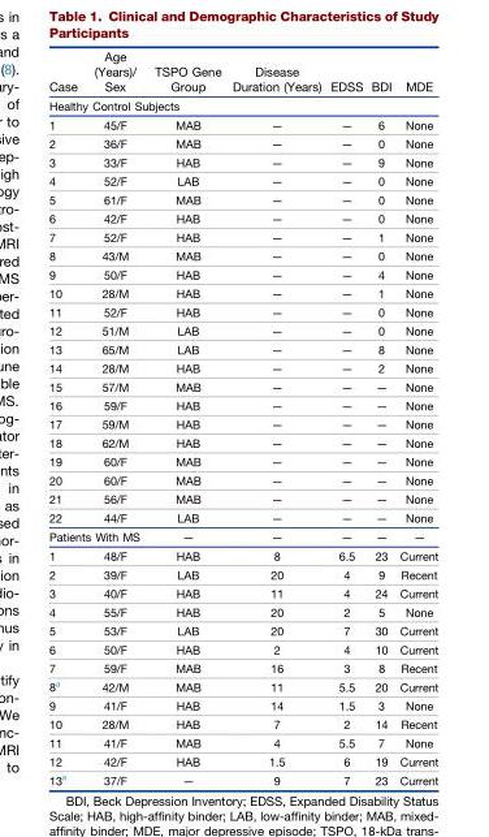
<table><thead><tr><td>Case</td><td>Age (Years)/ Sex</td><td>TSPO Gene Group</td><td>Disease Duration (Years)</td><td>EDSS</td><td>BDI</td><td>MDE</td></tr></thead><tbody><tr><td colspan="7">Healthy Control Subjects</td></tr><tr><td>1</td><td>45/F</td><td>MAB</td><td>—</td><td>—</td><td>6</td><td>None</td></tr><tr><td>2</td><td>36/F</td><td>MAB</td><td>—</td><td>—</td><td>0</td><td>None</td></tr><tr><td>3</td><td>33/F</td><td>HAB</td><td>—</td><td>—</td><td>9</td><td>None</td></tr><tr><td>4</td><td>52/F</td><td>LAB</td><td>—</td><td>—</td><td>0</td><td>None</td></tr><tr><td>5</td><td>61/F</td><td>MAB</td><td>—</td><td>—</td><td>0</td><td>None</td></tr><tr><td>6</td><td>42/F</td><td>HAB</td><td>—</td><td>—</td><td>0</td><td>None</td></tr><tr><td>7</td><td>52/F</td><td>HAB</td><td>—</td><td>—</td><td>1</td><td>None</td></tr><tr><td>8</td><td>43/M</td><td>MAB</td><td>—</td><td>—</td><td>0</td><td>None</td></tr><tr><td>9</td><td>50/F</td><td>HAB</td><td>—</td><td>—</td><td>4</td><td>None</td></tr><tr><td>10</td><td>28/M</td><td>HAB</td><td>—</td><td>—</td><td>1</td><td>None</td></tr><tr><td>11</td><td>52/F</td><td>HAB</td><td>—</td><td>—</td><td>0</td><td>None</td></tr><tr><td>12</td><td>51/M</td><td>LAB</td><td>—</td><td>—</td><td>0</td><td>None</td></tr><tr><td>13</td><td>65/M</td><td>LAB</td><td>—</td><td>—</td><td>8</td><td>None</td></tr><tr><td>14</td><td>28/M</td><td>HAB</td><td>—</td><td>—</td><td>2</td><td>None</td></tr><tr><td>15</td><td>57/M</td><td>MAB</td><td>—</td><td>—</td><td>—</td><td>None</td></tr><tr><td>16</td><td>59/F</td><td>HAB</td><td>—</td><td>—</td><td>—</td><td>None</td></tr><tr><td>17</td><td>59/M</td><td>HAB</td><td>—</td><td>—</td><td>—</td><td>None</td></tr><tr><td>18</td><td>62/M</td><td>HAB</td><td>—</td><td>—</td><td>—</td><td>None</td></tr><tr><td>19</td><td>60/F</td><td>MAB</td><td>—</td><td>—</td><td>—</td><td>None</td></tr><tr><td>20</td><td>60/F</td><td>MAB</td><td>—</td><td>—</td><td>—</td><td>None</td></tr><tr><td>21</td><td>56/F</td><td>MAB</td><td>—</td><td>—</td><td>—</td><td>None</td></tr><tr><td>22</td><td>44/F</td><td>LAB</td><td>—</td><td>—</td><td>—</td><td>None</td></tr><tr><td colspan="2">Patients With MS</td><td>—</td><td>—</td><td>—</td><td>—</td><td>—</td></tr><tr><td>1</td><td>48/F</td><td>HAB</td><td>8</td><td>6.5</td><td>23</td><td>Current</td></tr><tr><td>2</td><td>39/F</td><td>LAB</td><td>20</td><td>4</td><td>9</td><td>Recent</td></tr><tr><td>3</td><td>40/F</td><td>HAB</td><td>11</td><td>4</td><td>24</td><td>Current</td></tr><tr><td>4</td><td>55/F</td><td>HAB</td><td>20</td><td>2</td><td>5</td><td>None</td></tr><tr><td>5</td><td>53/F</td><td>LAB</td><td>20</td><td>7</td><td>30</td><td>Current</td></tr><tr><td>6</td><td>50/F</td><td>HAB</td><td>2</td><td>4</td><td>10</td><td>Current</td></tr><tr><td>7</td><td>59/F</td><td>MAB</td><td>16</td><td>3</td><td>8</td><td>Recent</td></tr><tr><td>8<sup>a</sup></td><td>42/M</td><td>MAB</td><td>11</td><td>5.5</td><td>20</td><td>Current</td></tr><tr><td>9</td><td>41/F</td><td>HAB</td><td>14</td><td>1.5</td><td>3</td><td>None</td></tr><tr><td>10</td><td>28/M</td><td>HAB</td><td>7</td><td>2</td><td>14</td><td>Recent</td></tr><tr><td>11</td><td>41/F</td><td>MAB</td><td>4</td><td>5.5</td><td>7</td><td>None</td></tr><tr><td>12</td><td>42/F</td><td>HAB</td><td>1.5</td><td>6</td><td>19</td><td>Current</td></tr><tr><td>13<sup>a</sup></td><td>37/F</td><td>—</td><td>9</td><td>7</td><td>23</td><td>Current</td></tr></tbody></table>